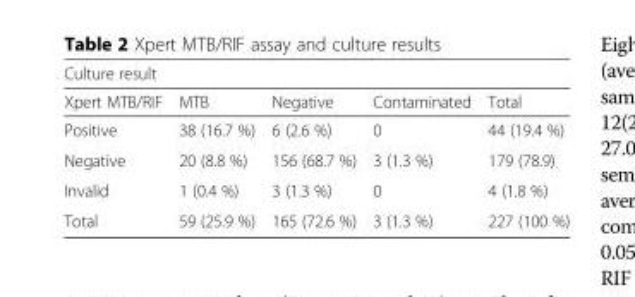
<table><thead><tr><td colspan="5">Culture result</td></tr><tr><td>Xpert MTB/RIF</td><td>MTB</td><td>Negative</td><td>Contaminated</td><td>Total</td></tr></thead><tbody><tr><td>Positive</td><td>38 (16.7 %)</td><td>6 (2.6 %)</td><td>0</td><td>44 (19.4 %)</td></tr><tr><td>Negative</td><td>20 (8.8 %)</td><td>156 (68.7 %)</td><td>3 (1.3 %)</td><td>179 (78.9)</td></tr><tr><td>Invalid</td><td>1 (0.4 %)</td><td>3 (1.3 %)</td><td>0</td><td>4 (1.8 %)</td></tr><tr><td>Total</td><td>59 (25.9 %)</td><td>165 (72.6 %)</td><td>3 (1.3 %)</td><td>227 (100 %)</td></tr></tbody></table>